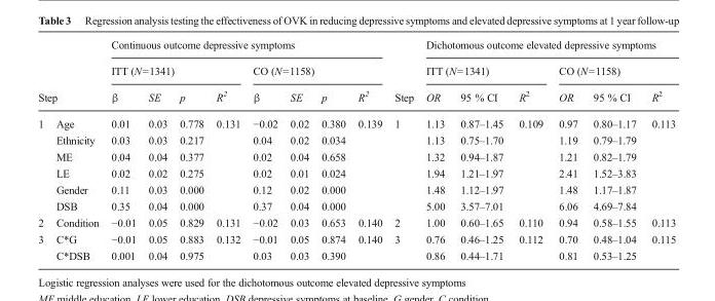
<table><thead><tr><td rowspan="2"></td><td rowspan="2"></td><td colspan="8">Continuous outcome depressive symptoms</td><td rowspan="3">Step</td><td colspan="6">Dichotomous outcome elevated depressive symptoms</td></tr><tr><td colspan="4">ITT (N=1341)</td><td colspan="4">CO (N=1158)</td><td colspan="3">ITT (N=1341)</td><td colspan="3">CO (N=1158)</td></tr><tr><td colspan="2">Step</td><td>β</td><td>SE</td><td>p</td><td>R<sup>2</sup></td><td>β</td><td>SE</td><td>p</td><td>R2</td><td>OR</td><td>95 % CI</td><td>R<sup>2</sup></td><td>OR</td><td>95 % CI</td><td>R<sup>2</sup></td></tr></thead><tbody><tr><td rowspan="6">1</td><td>Age</td><td>0.01</td><td>0.03</td><td>0.778</td><td>0.131</td><td>−0.02</td><td>0.02</td><td>0.380</td><td>0.139</td><td>1</td><td>1.13</td><td>0.87–1.45</td><td>0.109</td><td>0.97</td><td>0.80–1.17</td><td>0.113</td></tr><tr><td>Ethnicity</td><td>0.03</td><td>0.03</td><td>0.217</td><td></td><td>0.04</td><td>0.02</td><td>0.034</td><td></td><td></td><td>1.13</td><td>0.75–1.70</td><td></td><td>1.19</td><td>0.79–1.79</td><td></td></tr><tr><td>ME</td><td>0.04</td><td>0.04</td><td>0.377</td><td></td><td>0.02</td><td>0.04</td><td>0.658</td><td></td><td></td><td>1.32</td><td>0.94–1.87</td><td></td><td>1.21</td><td>0.82–1.79</td><td></td></tr><tr><td>LE</td><td>0.02</td><td>0.02</td><td>0.275</td><td></td><td>0.02</td><td>0.01</td><td>0.024</td><td></td><td></td><td>1.94</td><td>1.21–1.97</td><td></td><td>2.41</td><td>1.52–3.83</td><td></td></tr><tr><td>Gender</td><td>0.11</td><td>0.03</td><td>0.000</td><td></td><td>0.12</td><td>0.02</td><td>0.000</td><td></td><td></td><td>1.48</td><td>1.12–1.97</td><td></td><td>1.48</td><td>1.17–1.87</td><td></td></tr><tr><td>DSB</td><td>0.35</td><td>0.04</td><td>0.000</td><td></td><td>0.37</td><td>0.04</td><td>0.000</td><td></td><td></td><td>5.00</td><td>3.57–7.01</td><td></td><td>6.06</td><td>4.69–7.84</td><td></td></tr><tr><td>2</td><td>Condition</td><td>−0.01</td><td>0.05</td><td>0.829</td><td>0.131</td><td>−0.02</td><td>0.03</td><td>0.653</td><td>0.140</td><td>2</td><td>1.00</td><td>0.60–1.65</td><td>0.110</td><td>0.94</td><td>0.58–1.55</td><td>0.113</td></tr><tr><td rowspan="2">3</td><td>C*G</td><td>−0.01</td><td>0.05</td><td>0.883</td><td>0.132</td><td>−0.01</td><td>0.05</td><td>0.874</td><td>0.140</td><td>3</td><td>0.76</td><td>0.46–1.25</td><td>0.112</td><td>0.70</td><td>0.48–1.04</td><td>0.115</td></tr><tr><td>C*DSB</td><td>0.001</td><td>0.04</td><td>0.975</td><td></td><td>0.03</td><td>0.03</td><td>0.390</td><td></td><td></td><td>0.86</td><td>0.44–1.71</td><td></td><td>0.81</td><td>0.53–1.25</td><td></td></tr></tbody></table>